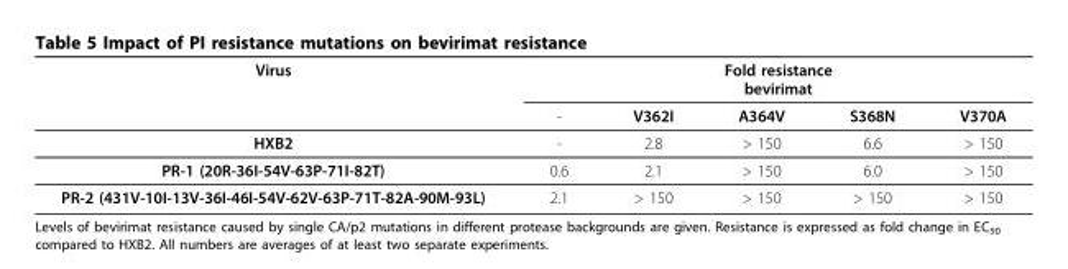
<table><thead><tr><td rowspan="2">Virus</td><td colspan="5">Fold resistance bevirimat</td></tr><tr><td>-</td><td>V362I</td><td>A364V</td><td>S368N</td><td>V370A</td></tr></thead><tbody><tr><td>HXB2</td><td>-</td><td>2.8</td><td>&gt; 150</td><td>6.6</td><td>&gt; 150</td></tr><tr><td>PR-1 (20R-36I-54V-63P-71I-82T)</td><td>0.6</td><td>2.1</td><td>&gt; 150</td><td>6.0</td><td>&gt; 150</td></tr><tr><td>PR-2 (431V-10I-13V-36I-46I-54V-62V-63P-71T-82A-90M-93L)</td><td>2.1</td><td>&gt; 150</td><td>&gt; 150</td><td>&gt; 150</td><td>&gt; 150</td></tr></tbody></table>